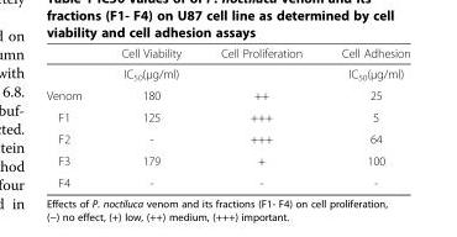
<table><thead><tr><td></td><td>Cell Viability</td><td>Cell Proliferation</td><td>Cell Adhesion</td></tr></thead><tbody><tr><td></td><td>IC<sub>50</sub>(μg/ml)</td><td></td><td>IC<sub>50</sub>(μg/ml)</td></tr><tr><td>Venom</td><td>180</td><td>++</td><td>25</td></tr><tr><td>F1</td><td>125</td><td>+++</td><td>5</td></tr><tr><td>F2</td><td>-</td><td>+++</td><td>64</td></tr><tr><td>F3</td><td>179</td><td>+</td><td>100</td></tr><tr><td>F4</td><td>-</td><td>-</td><td>-</td></tr></tbody></table>